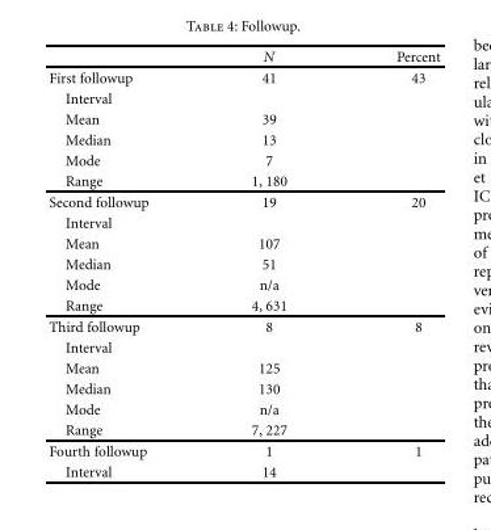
<table><thead><tr><td></td><td>N</td><td>Percent</td></tr></thead><tbody><tr><td>First followup</td><td>41</td><td>43</td></tr><tr><td colspan="3">Interval</td></tr><tr><td>Mean</td><td>39</td><td></td></tr><tr><td>Median</td><td>13</td><td></td></tr><tr><td>Mode</td><td>7</td><td></td></tr><tr><td>Range</td><td>1, 180</td><td></td></tr><tr><td>Second followup</td><td>19</td><td>20</td></tr><tr><td colspan="3">Interval</td></tr><tr><td>Mean</td><td>107</td><td></td></tr><tr><td>Median</td><td>51</td><td></td></tr><tr><td>Mode</td><td>n/a</td><td></td></tr><tr><td>Range</td><td>4, 631</td><td></td></tr><tr><td>Third followup</td><td>8</td><td>8</td></tr><tr><td colspan="3">Interval</td></tr><tr><td>Mean</td><td>125</td><td></td></tr><tr><td>Median</td><td>130</td><td></td></tr><tr><td>Mode</td><td>n/a</td><td></td></tr><tr><td>Range</td><td>7, 227</td><td></td></tr><tr><td>Fourth followup</td><td>1</td><td>1</td></tr><tr><td>Interval</td><td>14</td><td></td></tr></tbody></table>